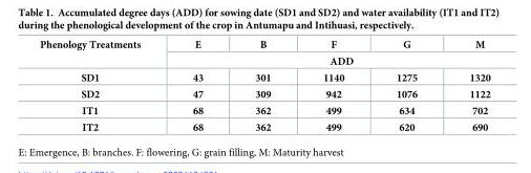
<table><thead><tr><td rowspan="2">Phenology Treatments</td><td>E</td><td>B</td><td>F</td><td>G</td><td>M</td></tr><tr><td colspan="5">ADD</td></tr></thead><tbody><tr><td>SD1</td><td>43</td><td>301</td><td>1140</td><td>1275</td><td>1320</td></tr><tr><td>SD2</td><td>47</td><td>309</td><td>942</td><td>1076</td><td>1122</td></tr><tr><td>IT1</td><td>68</td><td>362</td><td>499</td><td>634</td><td>702</td></tr><tr><td>IT2</td><td>68</td><td>362</td><td>499</td><td>620</td><td>690</td></tr></tbody></table>